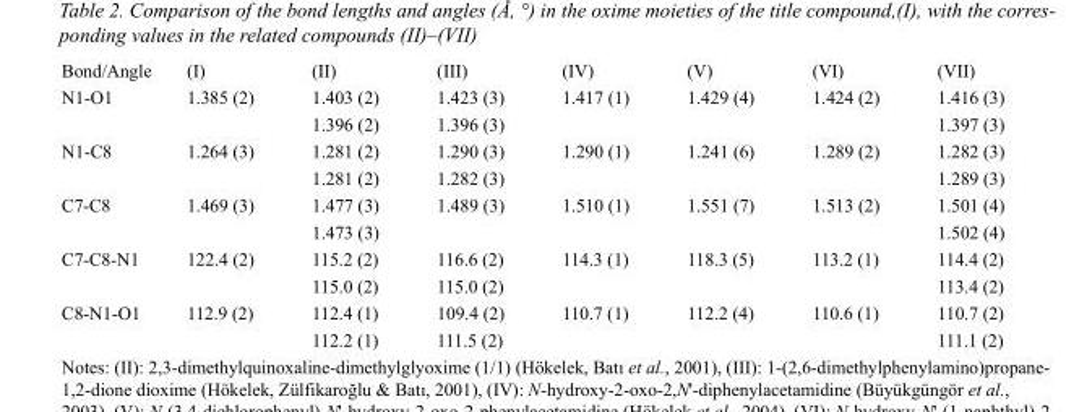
<table><tbody><tr><td>Bond/Angle</td><td>(I)</td><td>(II)</td><td>(III)</td><td>(IV)</td><td>(V)</td><td>(VI)</td><td>(VII)</td></tr><tr><td rowspan="2">N1-O1</td><td>1.385 (2)</td><td>1.403 (2)</td><td>1.423 (3)</td><td>1.417 (1)</td><td>1.429 (4)</td><td>1.424 (2)</td><td>1.416 (3)</td></tr><tr><td></td><td>1.396 (2)</td><td>1.396 (3)</td><td></td><td></td><td></td><td>1.397 (3)</td></tr><tr><td rowspan="2">N1-C8</td><td>1.264 (3)</td><td>1.281 (2)</td><td>1.290 (3)</td><td>1.290 (1)</td><td>1.241 (6)</td><td>1.289 (2)</td><td>1.282 (3)</td></tr><tr><td></td><td>1.281 (2)</td><td>1.282 (3)</td><td></td><td></td><td></td><td>1.289 (3)</td></tr><tr><td rowspan="2">C7-C8</td><td>1.469 (3)</td><td>1.477 (3)</td><td>1.489 (3)</td><td>1.510 (1)</td><td>1.551 (7)</td><td>1.513 (2)</td><td>1.501 (4)</td></tr><tr><td></td><td>1.473 (3)</td><td></td><td></td><td></td><td></td><td>1.502 (4)</td></tr><tr><td rowspan="2">C7-C8-N1</td><td>122.4 (2)</td><td>115.2 (2)</td><td>116.6 (2)</td><td>114.3 (1)</td><td>118.3 (5)</td><td>113.2 (1)</td><td>114.4 (2)</td></tr><tr><td></td><td>115.0 (2)</td><td>115.0 (2)</td><td></td><td></td><td></td><td>113.4 (2)</td></tr><tr><td rowspan="2">C8-N1-O1</td><td>112.9 (2)</td><td>112.4 (1)</td><td>109.4 (2)</td><td>110.7 (1)</td><td>112.2 (4)</td><td>110.6 (1)</td><td>110.7 (2)</td></tr><tr><td></td><td>112.2 (1)</td><td>111.5 (2)</td><td></td><td></td><td></td><td>111.1 (2)</td></tr></tbody></table>